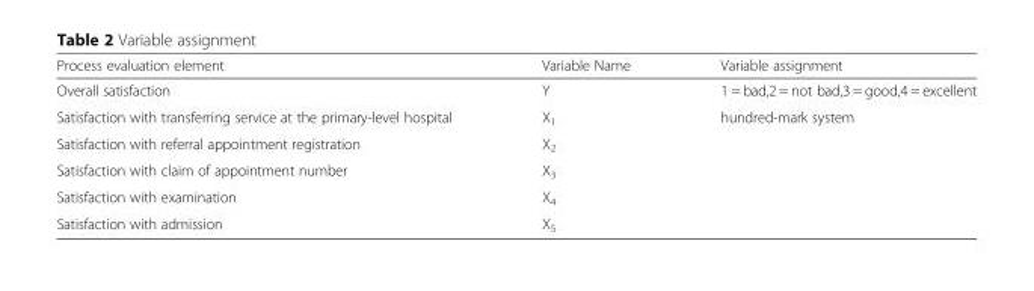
<table><thead><tr><td>Process evaluation element</td><td>Variable Name</td><td>Variable assignment</td></tr></thead><tbody><tr><td>Overall satisfaction</td><td>Y</td><td>1 = bad,2 = not bad,3 = good,4 = excellent</td></tr><tr><td>Satisfaction with transferring service at the primary-level hospital</td><td>X<sub>1</sub></td><td rowspan="5">hundred-mark system</td></tr><tr><td>Satisfaction with referral appointment registration</td><td>X<sub>2</sub></td></tr><tr><td>Satisfaction with claim of appointment number</td><td>X<sub>3</sub></td></tr><tr><td>Satisfaction with examination</td><td>X<sub>4</sub></td></tr><tr><td>Satisfaction with admission</td><td>X<sub>5</sub></td></tr></tbody></table>